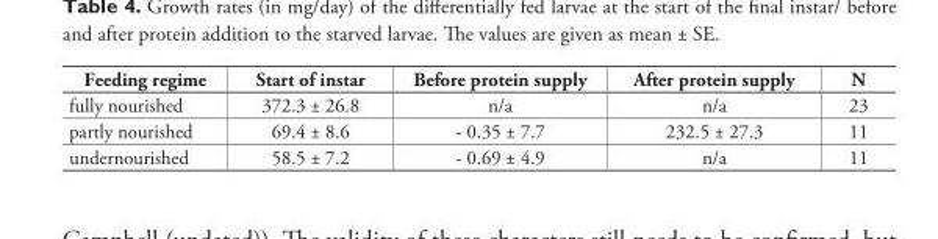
<table><thead><tr><td>Feeding regime</td><td>Start of instar</td><td>Before protein supply</td><td>After protein supply</td><td>N</td></tr></thead><tbody><tr><td>fully nourished</td><td>372.3 ± 26.8</td><td>n/a</td><td>n/a</td><td>23</td></tr><tr><td>partly nourished</td><td>69.4 ± 8.6</td><td>- 0.35 ± 7.7</td><td>232.5 ± 27.3</td><td>11</td></tr><tr><td>undernourished</td><td>58.5 ± 7.2</td><td>- 0.69 ± 4.9</td><td>n/a</td><td>11</td></tr></tbody></table>